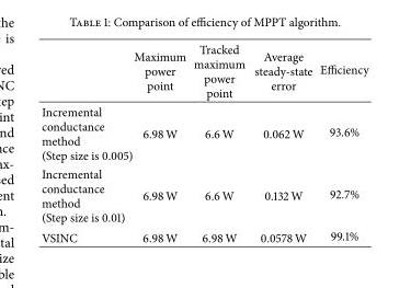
<table><thead><tr><td></td><td>Maximum power point</td><td>Tracked maximum power point</td><td>Average steady-state error</td><td>Efficiency</td></tr></thead><tbody><tr><td>Incremental conductance method (Step size is 0.005)</td><td>6.98 W</td><td>6.6 W</td><td>0.062 W</td><td>93.6%</td></tr><tr><td>Incremental conductance method (Step size is 0.01)</td><td>6.98 W</td><td>6.6 W</td><td>0.132 W</td><td>92.7%</td></tr><tr><td>VSINC</td><td>6.98 W</td><td>6.98 W</td><td>0.0578 W</td><td>99.1%</td></tr></tbody></table>